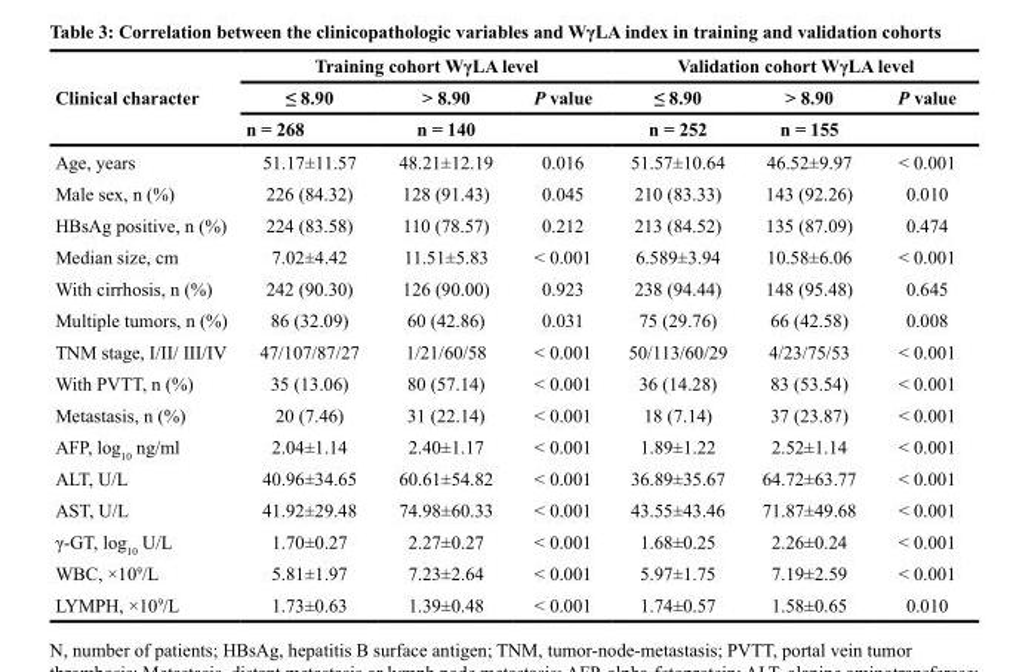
<table><thead><tr><td rowspan="3">Clinical character</td><td colspan="3">Training cohort WγLA level</td><td colspan="3">Validation cohort WγLA level</td></tr><tr><td rowspan="2">≤ 8.90 n = 268</td><td rowspan="2">&gt; 8.90 n = 140</td><td rowspan="2">P value</td><td rowspan="2">≤ 8.90 n = 252</td><td rowspan="2">&gt; 8.90 n = 155</td><td rowspan="2">P value</td></tr><tr></tr></thead><tbody><tr><td>Age, years</td><td>51.17±11.57</td><td>48.21±12.19</td><td>0.016</td><td>51.57±10.64</td><td>46.52±9.97</td><td>&lt; 0.001</td></tr><tr><td>Male sex, n (%)</td><td>226 (84.32)</td><td>128 (91.43)</td><td>0.045</td><td>210 (83.33)</td><td>143 (92.26)</td><td>0.010</td></tr><tr><td>HBsAg positive, n (%)</td><td>224 (83.58)</td><td>110 (78.57)</td><td>0.212</td><td>213 (84.52)</td><td>135 (87.09)</td><td>0.474</td></tr><tr><td>Median size, cm</td><td>7.02±4.42</td><td>11.51±5.83</td><td>&lt; 0.001</td><td>6.589±3.94</td><td>10.58±6.06</td><td>&lt; 0.001</td></tr><tr><td>With cirrhosis, n (%)</td><td>242 (90.30)</td><td>126 (90.00)</td><td>0.923</td><td>238 (94.44)</td><td>148 (95.48)</td><td>0.645</td></tr><tr><td>Multiple tumors, n (%)</td><td>86 (32.09)</td><td>60 (42.86)</td><td>0.031</td><td>75 (29.76)</td><td>66 (42.58)</td><td>0.008</td></tr><tr><td>TNM stage, I/II/ III/IV</td><td>47/107/87/27</td><td>1/21/60/58</td><td>&lt; 0.001</td><td>50/113/60/29</td><td>4/23/75/53</td><td>&lt; 0.001</td></tr><tr><td>With PVTT, n (%)</td><td>35 (13.06)</td><td>80 (57.14)</td><td>&lt; 0.001</td><td>36 (14.28)</td><td>83 (53.54)</td><td>&lt; 0.001</td></tr><tr><td>Metastasis, n (%)</td><td>20 (7.46)</td><td>31 (22.14)</td><td>&lt; 0.001</td><td>18 (7.14)</td><td>37 (23.87)</td><td>&lt; 0.001</td></tr><tr><td>AFP, log<sub>10</sub> ng/ml</td><td>2.04±1.14</td><td>2.40±1.17</td><td>&lt; 0.001</td><td>1.89±1.22</td><td>2.52±1.14</td><td>&lt; 0.001</td></tr><tr><td>ALT, U/L</td><td>40.96±34.65</td><td>60.61±54.82</td><td>&lt; 0.001</td><td>36.89±35.67</td><td>64.72±63.77</td><td>&lt; 0.001</td></tr><tr><td>AST, U/L</td><td>41.92±29.48</td><td>74.98±60.33</td><td>&lt; 0.001</td><td>43.55±43.46</td><td>71.87±49.68</td><td>&lt; 0.001</td></tr><tr><td>γ-GT, log<sub>10</sub> U/L</td><td>1.70±0.27</td><td>2.27±0.27</td><td>&lt; 0.001</td><td>1.68±0.25</td><td>2.26±0.24</td><td>&lt; 0.001</td></tr><tr><td>WBC, ×10<sup>9</sup>/L</td><td>5.81±1.97</td><td>7.23±2.64</td><td>&lt; 0.001</td><td>5.97±1.75</td><td>7.19±2.59</td><td>&lt; 0.001</td></tr><tr><td>LYMPH, ×10<sup>9</sup>/L</td><td>1.73±0.63</td><td>1.39±0.48</td><td>&lt; 0.001</td><td>1.74±0.57</td><td>1.58±0.65</td><td>0.010</td></tr></tbody></table>